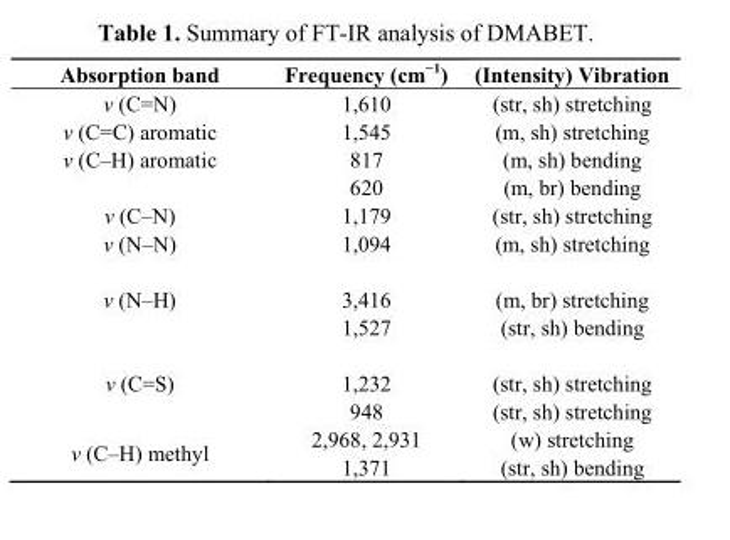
<table><thead><tr><td>Absorption band</td><td>Frequency (cm<sup>−1</sup>)</td><td>(Intensity) Vibration</td></tr></thead><tbody><tr><td>v (C=N)</td><td>1,610</td><td>(str, sh) stretching</td></tr><tr><td>v (C=C) aromatic</td><td>1,545</td><td>(m, sh) stretching</td></tr><tr><td rowspan="2">v (C–H) aromatic</td><td>817</td><td>(m, sh) bending</td></tr><tr><td>620</td><td>(m, br) bending</td></tr><tr><td>v (C–N)</td><td>1,179</td><td>(str, sh) stretching</td></tr><tr><td>v (N–N)</td><td>1,094</td><td>(m, sh) stretching</td></tr><tr><td rowspan="2">v (N–H)</td><td>3,416</td><td>(m, br) stretching</td></tr><tr><td>1,527</td><td>(str, sh) bending</td></tr><tr><td rowspan="2">v (C=S)</td><td>1,232</td><td>(str, sh) stretching</td></tr><tr><td>948</td><td>(str, sh) stretching</td></tr><tr><td rowspan="2">v (C–H) methyl</td><td>2,968, 2,931</td><td>(w) stretching</td></tr><tr><td>1,371</td><td>(str, sh) bending</td></tr></tbody></table>